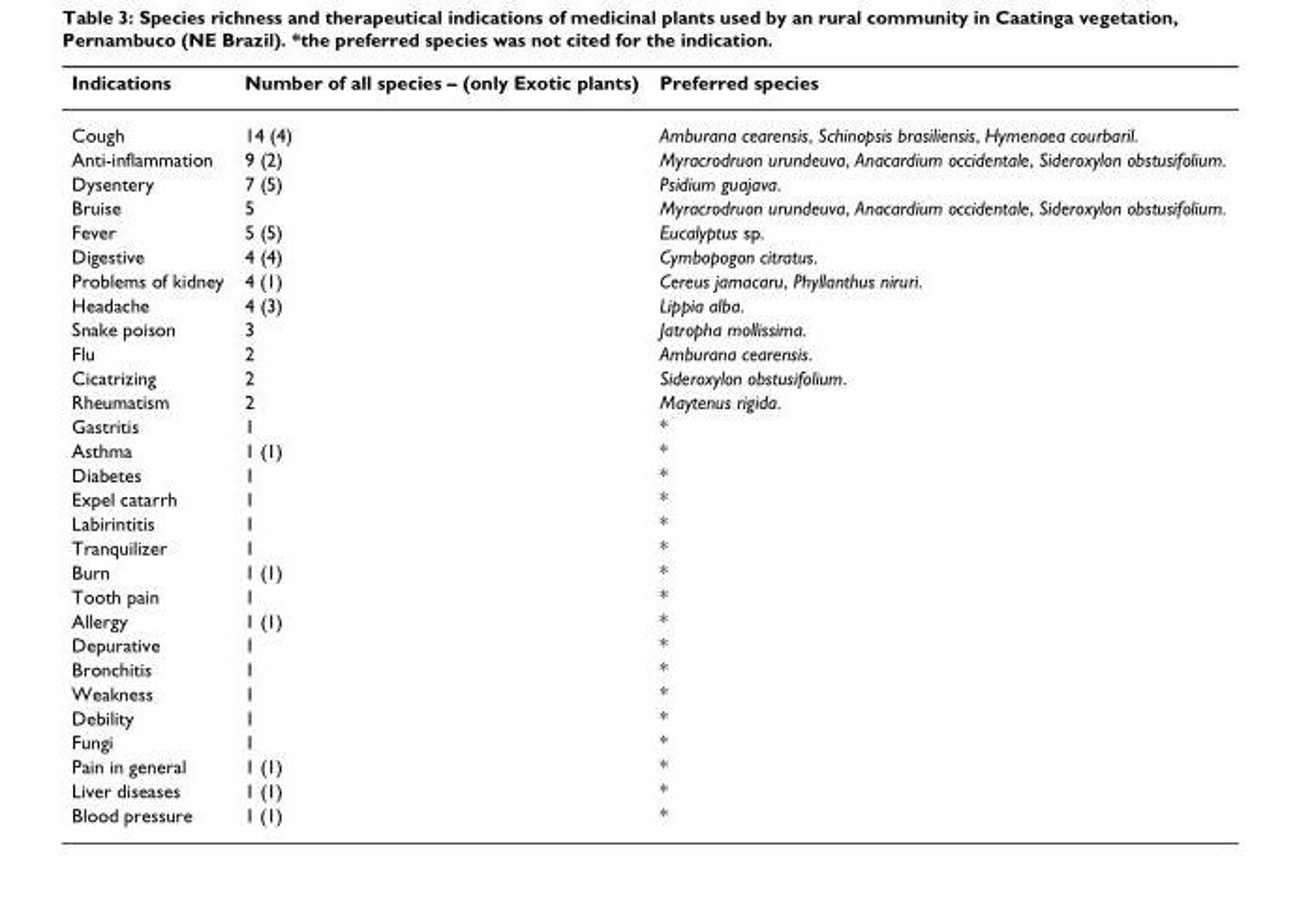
<table><thead><tr><td>Indications</td><td>Number of all species – (only Exotic plants)</td><td>Preferred species</td></tr></thead><tbody><tr><td>Cough</td><td>14 (4)</td><td>Amburana cearensis, Schinopsis brasiliensis, Hymenaea courbaril.</td></tr><tr><td>Anti-inflammation</td><td>9 (2)</td><td>Myracrodruon urundeuva, Anacardium occidentale, Sideroxylon obstusifolium.</td></tr><tr><td>Dysentery</td><td>7 (5)</td><td>Psidium guajava.</td></tr><tr><td>Bruise</td><td>5</td><td>Myracrodruon urundeuva, Anacardium occidentale, Sideroxylon obstusifolium.</td></tr><tr><td>Fever</td><td>5 (5)</td><td>Eucalyptus sp.</td></tr><tr><td>Digestive</td><td>4 (4)</td><td>Cymbopogon citratus.</td></tr><tr><td>Problems of kidney</td><td>4 (1)</td><td>Cereus jamacaru, Phyllanthus niruri.</td></tr><tr><td>Headache</td><td>4 (3)</td><td>Lippia alba.</td></tr><tr><td>Snake poison</td><td>3</td><td>Jatropha mollissima.</td></tr><tr><td>Flu</td><td>2</td><td>Amburana cearensis.</td></tr><tr><td>Cicatrizing</td><td>2</td><td>Sideroxylon obstusifolium.</td></tr><tr><td>Rheumatism</td><td>2</td><td>Maytenus rigida.</td></tr><tr><td>Gastritis</td><td>1</td><td>*</td></tr><tr><td>Asthma</td><td>1 (1)</td><td>*</td></tr><tr><td>Diabetes</td><td>1</td><td>*</td></tr><tr><td>Expel catarrh</td><td>1</td><td>*</td></tr><tr><td>Labirintitis</td><td>1</td><td>*</td></tr><tr><td>Tranquilizer</td><td>1</td><td>*</td></tr><tr><td>Burn</td><td>1 (1)</td><td>*</td></tr><tr><td>Tooth pain</td><td>1</td><td>*</td></tr><tr><td>Allergy</td><td>1 (1)</td><td>*</td></tr><tr><td>Depurative</td><td>1</td><td>*</td></tr><tr><td>Bronchitis</td><td>1</td><td>*</td></tr><tr><td>Weakness</td><td>1</td><td>*</td></tr><tr><td>Debility</td><td>1</td><td>*</td></tr><tr><td>Fungi</td><td>1</td><td>*</td></tr><tr><td>Pain in general</td><td>1 (1)</td><td>*</td></tr><tr><td>Liver diseases</td><td>1 (1)</td><td>*</td></tr><tr><td>Blood pressure</td><td>1 (1)</td><td>*</td></tr></tbody></table>